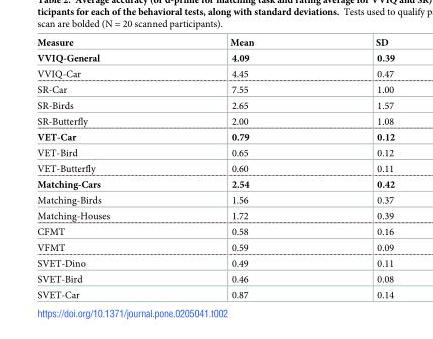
<table><thead><tr><td>Measure</td><td>Mean</td><td>SD</td></tr></thead><tbody><tr><td>VVIQ-General</td><td>4.09</td><td>0.39</td></tr><tr><td>VVIQ-Car</td><td>4.45</td><td>0.47</td></tr><tr><td>SR-Car</td><td>7.55</td><td>1.00</td></tr><tr><td>SR-Birds</td><td>2.65</td><td>1.57</td></tr><tr><td>SR-Butterfly</td><td>2.00</td><td>1.08</td></tr><tr><td>VET-Car</td><td>0.79</td><td>0.12</td></tr><tr><td>VET-Bird</td><td>0.65</td><td>0.12</td></tr><tr><td>VET-Butterfly</td><td>0.60</td><td>0.11</td></tr><tr><td>Matching-Cars</td><td>2.54</td><td>0.42</td></tr><tr><td>Matching-Birds</td><td>1.56</td><td>0.37</td></tr><tr><td>Matching-Houses</td><td>1.72</td><td>0.39</td></tr><tr><td>CFMT</td><td>0.58</td><td>0.16</td></tr><tr><td>VFMT</td><td>0.59</td><td>0.09</td></tr><tr><td>SVET-Dino</td><td>0.49</td><td>0.11</td></tr><tr><td>SVET-Bird</td><td>0.46</td><td>0.08</td></tr><tr><td>SVET-Car</td><td>0.87</td><td>0.14</td></tr></tbody></table>